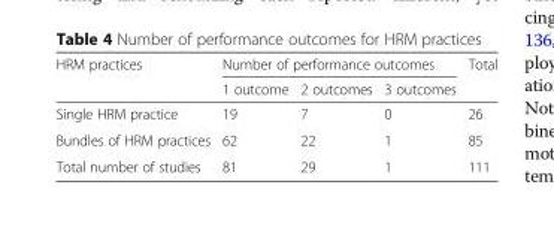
<table><thead><tr><td rowspan="2">HRM practices</td><td colspan="3">Number of performance outcomes</td><td rowspan="2">Total</td></tr><tr><td>1 outcome</td><td>2 outcomes</td><td>3 outcomes</td></tr></thead><tbody><tr><td>Single HRM practice</td><td>19</td><td>7</td><td>0</td><td>26</td></tr><tr><td>Bundles of HRM practices</td><td>62</td><td>22</td><td>1</td><td>85</td></tr><tr><td>Total number of studies</td><td>81</td><td>29</td><td>1</td><td>111</td></tr></tbody></table>